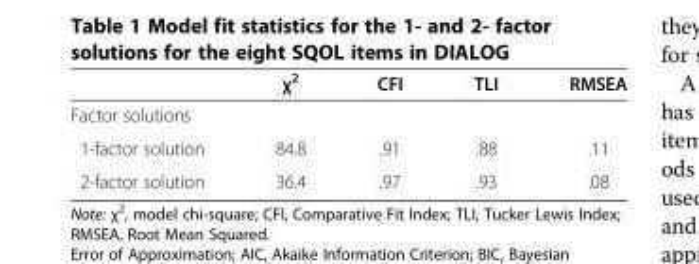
<table><thead><tr><td></td><td>χ<sup>2</sup></td><td>CFI</td><td>TLI</td><td>RMSEA</td></tr></thead><tbody><tr><td colspan="5">Factor solutions</td></tr><tr><td>1-factor solution</td><td>84.8</td><td>.91</td><td>.88</td><td>.11</td></tr><tr><td>2-factor solution</td><td>36.4</td><td>.97</td><td>.93</td><td>.08</td></tr></tbody></table>